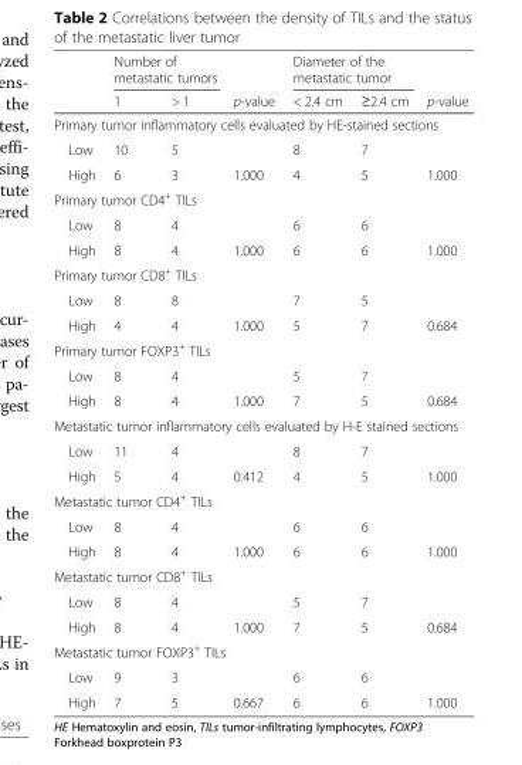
<table><thead><tr><td rowspan="2"></td><td colspan="2">Number of metastatic tumors</td><td rowspan="2">p-value</td><td colspan="2">Diameter of the metastatic tumor</td><td rowspan="2">p-value</td></tr><tr><td>1</td><td>&gt; 1</td><td>&lt; 2.4 cm</td><td>≥2.4 cm</td></tr></thead><tbody><tr><td colspan="7">Primary tumor inflammatory cells evaluated by HE-stained sections</td></tr><tr><td>Low</td><td>10</td><td>5</td><td></td><td>8</td><td>7</td><td></td></tr><tr><td>High</td><td>6</td><td>3</td><td>1.000</td><td>4</td><td>5</td><td>1.000</td></tr><tr><td colspan="7">Primary tumor CD4<sup>+</sup> TILs</td></tr><tr><td>Low</td><td>8</td><td>4</td><td></td><td>6</td><td>6</td><td></td></tr><tr><td>High</td><td>8</td><td>4</td><td>1.000</td><td>6</td><td>6</td><td>1.000</td></tr><tr><td colspan="7">Primary tumor CD8<sup>+</sup> TILs</td></tr><tr><td>Low</td><td>8</td><td>8</td><td></td><td>7</td><td>5</td><td></td></tr><tr><td>High</td><td>4</td><td>4</td><td>1.000</td><td>5</td><td>7</td><td>0.684</td></tr><tr><td colspan="7">Primary tumor FOXP3<sup>+</sup> TILs</td></tr><tr><td>Low</td><td>8</td><td>4</td><td></td><td>5</td><td>7</td><td></td></tr><tr><td>High</td><td>8</td><td>4</td><td>1.000</td><td>7</td><td>5</td><td>0.684</td></tr><tr><td colspan="7">Metastatic tumor inflammatory cells evaluated by H-E stained sections</td></tr><tr><td>Low</td><td>11</td><td>4</td><td></td><td>8</td><td>7</td><td></td></tr><tr><td>High</td><td>5</td><td>4</td><td>0.412</td><td>4</td><td>5</td><td>1.000</td></tr><tr><td colspan="7">Metastatic tumor CD4<sup>+</sup> TILs</td></tr><tr><td>Low</td><td>8</td><td>4</td><td></td><td>6</td><td>6</td><td></td></tr><tr><td>High</td><td>8</td><td>4</td><td>1.000</td><td>6</td><td>6</td><td>1.000</td></tr><tr><td colspan="7">Metastatic tumor CD8<sup>+</sup> TILs</td></tr><tr><td>Low</td><td>8</td><td>4</td><td></td><td>5</td><td>7</td><td></td></tr><tr><td>High</td><td>8</td><td>4</td><td>1.000</td><td>7</td><td>5</td><td>0.684</td></tr><tr><td colspan="7">Metastatic tumor FOXP3<sup>+</sup> TILs</td></tr><tr><td>Low</td><td>9</td><td>3</td><td></td><td>6</td><td>6</td><td></td></tr><tr><td>High</td><td>7</td><td>5</td><td>0.667</td><td>6</td><td>6</td><td>1.000</td></tr></tbody></table>